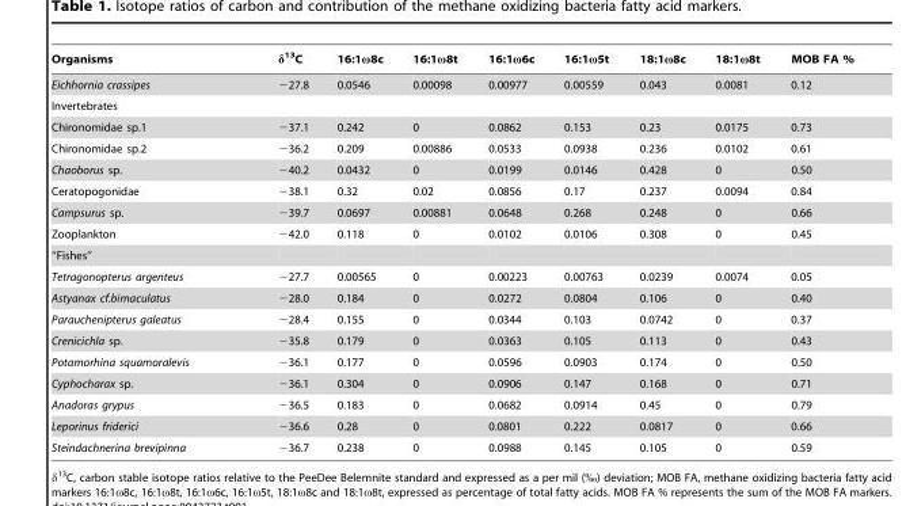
<table><thead><tr><td>Organisms</td><td>δ<sup>13</sup>C</td><td>16:1ω8c</td><td>16:1ω8t</td><td>16:1ω6c</td><td>16:1ω5t</td><td>18:1ω8c</td><td>18:1ω8t</td><td>MOB FA %</td></tr></thead><tbody><tr><td>Eichhornia crassipes</td><td>−27.8</td><td>0.0546</td><td>0.00098</td><td>0.00977</td><td>0.00559</td><td>0.043</td><td>0.0081</td><td>0.12</td></tr><tr><td colspan="9">Invertebrates</td></tr><tr><td>Chironomidae sp.1</td><td>−37.1</td><td>0.242</td><td>0</td><td>0.0862</td><td>0.153</td><td>0.23</td><td>0.0175</td><td>0.73</td></tr><tr><td>Chironomidae sp.2</td><td>−36.2</td><td>0.209</td><td>0.00886</td><td>0.0533</td><td>0.0938</td><td>0.236</td><td>0.0102</td><td>0.61</td></tr><tr><td>Chaoborus sp.</td><td>−40.2</td><td>0.0432</td><td>0</td><td>0.0199</td><td>0.0146</td><td>0.428</td><td>0</td><td>0.50</td></tr><tr><td>Ceratopogonidae</td><td>−38.1</td><td>0.32</td><td>0.02</td><td>0.0856</td><td>0.17</td><td>0.237</td><td>0.0094</td><td>0.84</td></tr><tr><td>Campsurus sp.</td><td>−39.7</td><td>0.0697</td><td>0.00881</td><td>0.0648</td><td>0.268</td><td>0.248</td><td>0</td><td>0.66</td></tr><tr><td>Zooplankton</td><td>−42.0</td><td>0.118</td><td>0</td><td>0.0102</td><td>0.0106</td><td>0.308</td><td>0</td><td>0.45</td></tr><tr><td colspan="9">‘‘Fishes’’</td></tr><tr><td>Tetragonopterus argenteus</td><td>−27.7</td><td>0.00565</td><td>0</td><td>0.00223</td><td>0.00763</td><td>0.0239</td><td>0.0074</td><td>0.05</td></tr><tr><td>Astyanax cf.bimaculatus</td><td>−28.0</td><td>0.184</td><td>0</td><td>0.0272</td><td>0.0804</td><td>0.106</td><td>0</td><td>0.40</td></tr><tr><td>Parauchenipterus galeatus</td><td>−28.4</td><td>0.155</td><td>0</td><td>0.0344</td><td>0.103</td><td>0.0742</td><td>0</td><td>0.37</td></tr><tr><td>Crenicichla sp.</td><td>−35.8</td><td>0.179</td><td>0</td><td>0.0363</td><td>0.105</td><td>0.113</td><td>0</td><td>0.43</td></tr><tr><td>Potamorhina squamoralevis</td><td>−36.1</td><td>0.177</td><td>0</td><td>0.0596</td><td>0.0903</td><td>0.174</td><td>0</td><td>0.50</td></tr><tr><td>Cyphocharax sp.</td><td>−36.1</td><td>0.304</td><td>0</td><td>0.0906</td><td>0.147</td><td>0.168</td><td>0</td><td>0.71</td></tr><tr><td>Anadoras grypus</td><td>−36.5</td><td>0.183</td><td>0</td><td>0.0682</td><td>0.0914</td><td>0.45</td><td>0</td><td>0.79</td></tr><tr><td>Leporinus friderici</td><td>−36.6</td><td>0.28</td><td>0</td><td>0.0801</td><td>0.222</td><td>0.0817</td><td>0</td><td>0.66</td></tr><tr><td>Steindachnerina brevipinna</td><td>−36.7</td><td>0.238</td><td>0</td><td>0.0988</td><td>0.145</td><td>0.105</td><td>0</td><td>0.59</td></tr></tbody></table>